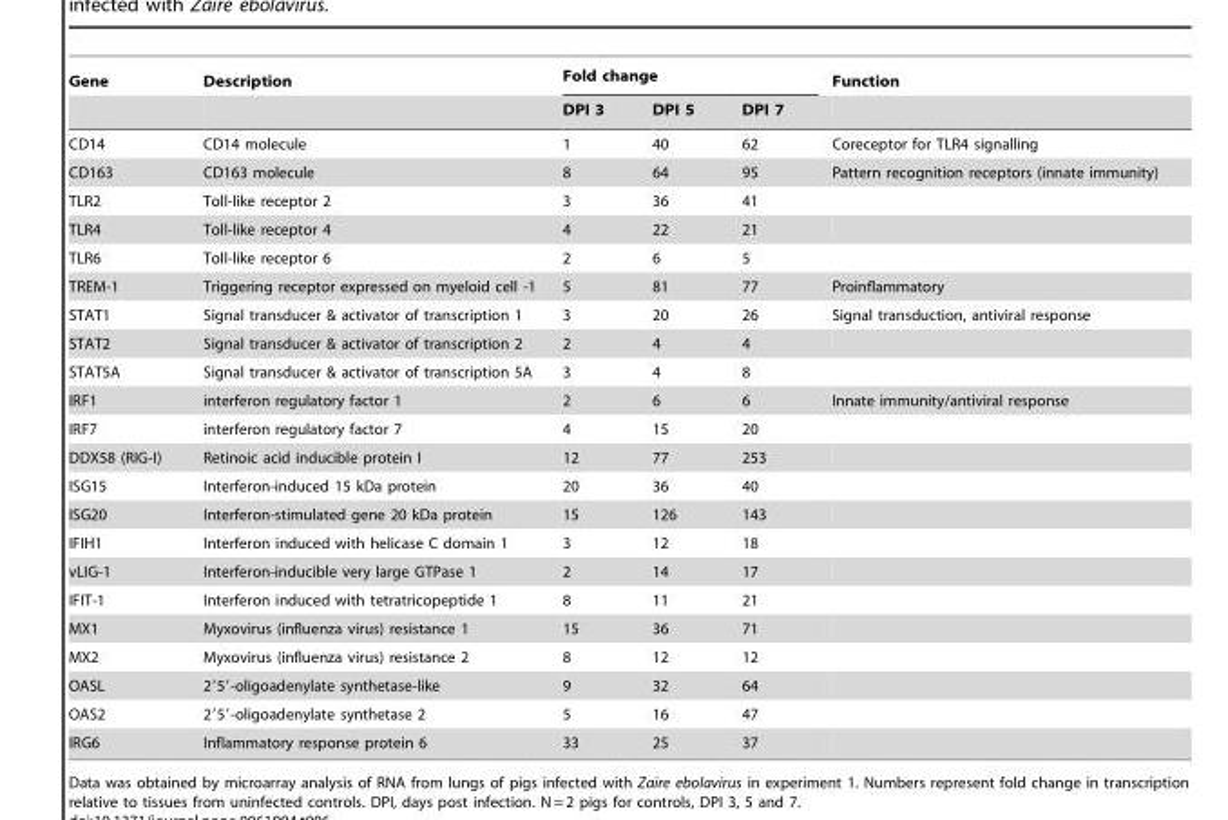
<table><thead><tr><td rowspan="2">Gene</td><td rowspan="2">Description</td><td colspan="3">Fold change</td><td rowspan="2">Function</td></tr><tr><td>DPI 3</td><td>DPI 5</td><td>DPI 7</td></tr></thead><tbody><tr><td>CD14</td><td>CD14 molecule</td><td>1</td><td>40</td><td>62</td><td>Coreceptor for TLR4 signalling</td></tr><tr><td>CD163</td><td>CD163 molecule</td><td>8</td><td>64</td><td>95</td><td>Pattern recognition receptors (innate immunity)</td></tr><tr><td>TLR2</td><td>Toll-like receptor 2</td><td>3</td><td>36</td><td>41</td><td></td></tr><tr><td>TLR4</td><td>Toll-like receptor 4</td><td>4</td><td>22</td><td>21</td><td></td></tr><tr><td>TLR6</td><td>Toll-like receptor 6</td><td>2</td><td>6</td><td>5</td><td></td></tr><tr><td>TREM-1</td><td>Triggering receptor expressed on myeloid cell -1</td><td>5</td><td>81</td><td>77</td><td>Proinflammatory</td></tr><tr><td>STAT1</td><td>Signal transducer &amp; activator of transcription 1</td><td>3</td><td>20</td><td>26</td><td>Signal transduction, antiviral response</td></tr><tr><td>STAT2</td><td>Signal transducer &amp; activator of transcription 2</td><td>2</td><td>4</td><td>4</td><td></td></tr><tr><td>STAT5A</td><td>Signal transducer &amp; activator of transcription 5A</td><td>3</td><td>4</td><td>8</td><td></td></tr><tr><td>IRF1</td><td>interferon regulatory factor 1</td><td>2</td><td>6</td><td>6</td><td>Innate immunity/antiviral response</td></tr><tr><td>IRF7</td><td>interferon regulatory factor 7</td><td>4</td><td>15</td><td>20</td><td></td></tr><tr><td>DDX58 (RIG-I)</td><td>Retinoic acid inducible protein I</td><td>12</td><td>77</td><td>253</td><td></td></tr><tr><td>ISG15</td><td>Interferon-induced 15 kDa protein</td><td>20</td><td>36</td><td>40</td><td></td></tr><tr><td>ISG20</td><td>Interferon-stimulated gene 20 kDa protein</td><td>15</td><td>126</td><td>143</td><td></td></tr><tr><td>IFIH1</td><td>Interferon induced with helicase C domain 1</td><td>3</td><td>12</td><td>18</td><td></td></tr><tr><td>vLIG-1</td><td>Interferon-inducible very large GTPase 1</td><td>2</td><td>14</td><td>17</td><td></td></tr><tr><td>IFIT-1</td><td>Interferon induced with tetratricopeptide 1</td><td>8</td><td>11</td><td>21</td><td></td></tr><tr><td>MX1</td><td>Myxovirus (influenza virus) resistance 1</td><td>15</td><td>36</td><td>71</td><td></td></tr><tr><td>MX2</td><td>Myxovirus (influenza virus) resistance 2</td><td>8</td><td>12</td><td>12</td><td></td></tr><tr><td>OASL</td><td>2′5′-oligoadenylate synthetase-like</td><td>9</td><td>32</td><td>64</td><td></td></tr><tr><td>OAS2</td><td>2′5′-oligoadenylate synthetase 2</td><td>5</td><td>16</td><td>47</td><td></td></tr><tr><td>IRG6</td><td>Inflammatory response protein 6</td><td>33</td><td>25</td><td>37</td><td></td></tr></tbody></table>